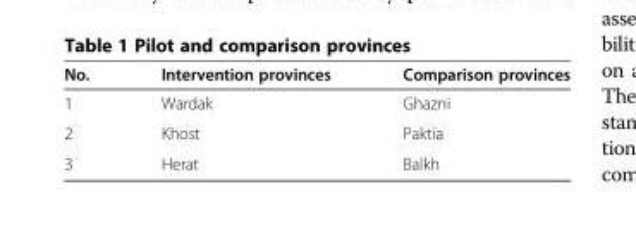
<table><thead><tr><td>No.</td><td>Intervention provinces</td><td>Comparison provinces</td></tr></thead><tbody><tr><td>1</td><td>Wardak</td><td>Ghazni</td></tr><tr><td>2</td><td>Khost</td><td>Paktia</td></tr><tr><td>3</td><td>Herat</td><td>Balkh</td></tr></tbody></table>